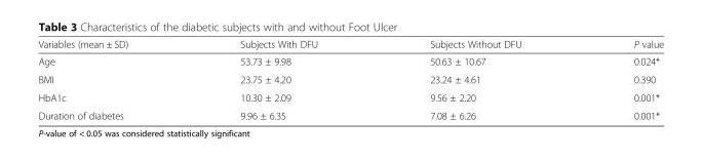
<table><thead><tr><td>Variables (mean ± SD)</td><td>Subjects With DFU</td><td>Subjects Without DFU</td><td>P value</td></tr></thead><tbody><tr><td>Age</td><td>53.73 ± 9.98</td><td>50.63 ± 10.67</td><td>0.024*</td></tr><tr><td>BMI</td><td>23.75 ± 4.20</td><td>23.24 ± 4.61</td><td>0.390</td></tr><tr><td>HbA1c</td><td>10.30 ± 2.09</td><td>9.56 ± 2.20</td><td>0.001*</td></tr><tr><td>Duration of diabetes</td><td>9.96 ± 6.35</td><td>7.08 ± 6.26</td><td>0.001*</td></tr></tbody></table>